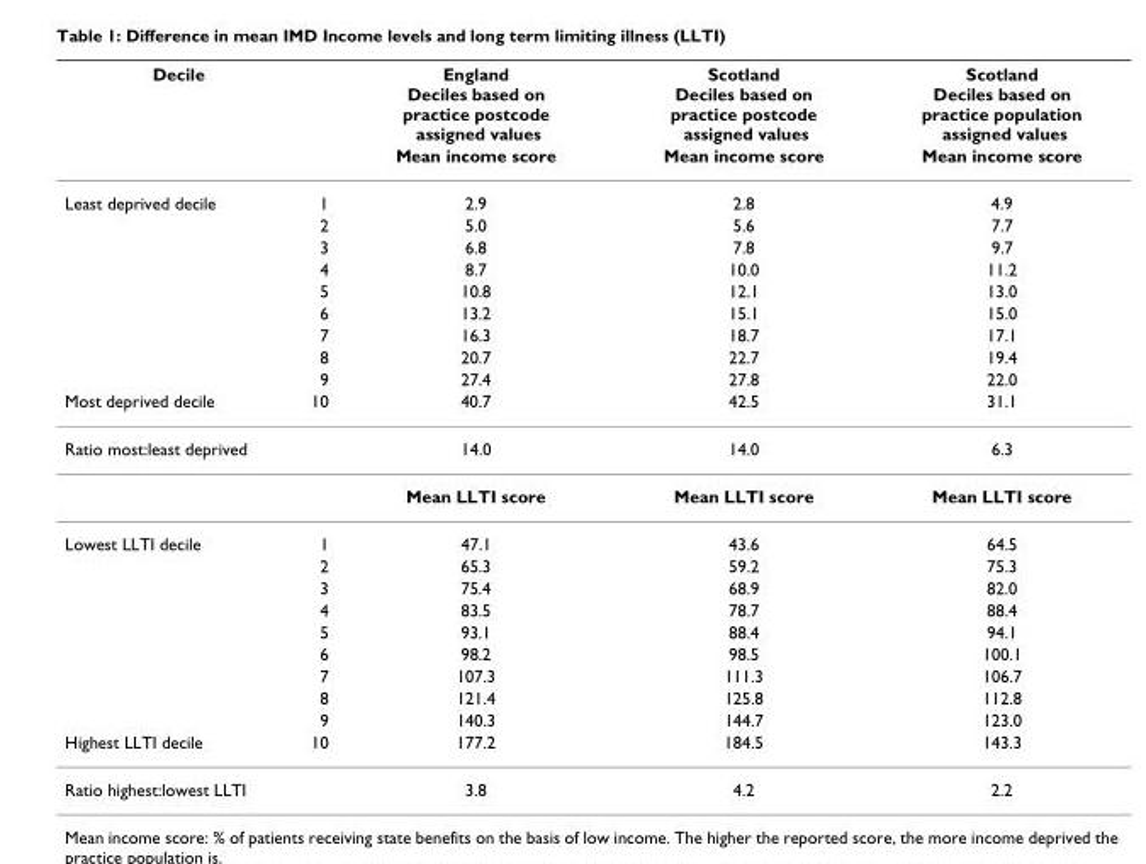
<table><thead><tr><td rowspan="2">Decile</td><td rowspan="2"></td><td rowspan="2">England Deciles based on practice postcode assigned values Mean income score</td><td rowspan="2">Scotland Deciles based on practice postcode assigned values Mean income score</td><td rowspan="2">Scotland Deciles based on practice population assigned values Mean income score</td></tr><tr></tr></thead><tbody><tr><td rowspan="9">Least deprived decile</td><td>1</td><td>2.9</td><td>2.8</td><td>4.9</td></tr><tr><td>2</td><td>5.0</td><td>5.6</td><td>7.7</td></tr><tr><td>3</td><td>6.8</td><td>7.8</td><td>9.7</td></tr><tr><td>4</td><td>8.7</td><td>10.0</td><td>11.2</td></tr><tr><td>5</td><td>10.8</td><td>12.1</td><td>13.0</td></tr><tr><td>6</td><td>13.2</td><td>15.1</td><td>15.0</td></tr><tr><td>7</td><td>16.3</td><td>18.7</td><td>17.1</td></tr><tr><td>8</td><td>20.7</td><td>22.7</td><td>19.4</td></tr><tr><td>9</td><td>27.4</td><td>27.8</td><td>22.0</td></tr><tr><td>Most deprived decile</td><td>10</td><td>40.7</td><td>42.5</td><td>31.1</td></tr><tr><td colspan="2">Ratio most:least deprived</td><td>14.0</td><td>14.0</td><td>6.3</td></tr><tr><td></td><td></td><td>Mean LLTI score</td><td>Mean LLTI score</td><td>Mean LLTI score</td></tr><tr><td rowspan="9">Lowest LLTI decile</td><td>1</td><td>47.1</td><td>43.6</td><td>64.5</td></tr><tr><td>2</td><td>65.3</td><td>59.2</td><td>75.3</td></tr><tr><td>3</td><td>75.4</td><td>68.9</td><td>82.0</td></tr><tr><td>4</td><td>83.5</td><td>78.7</td><td>88.4</td></tr><tr><td>5</td><td>93.1</td><td>88.4</td><td>94.1</td></tr><tr><td>6</td><td>98.2</td><td>98.5</td><td>100.1</td></tr><tr><td>7</td><td>107.3</td><td>111.3</td><td>106.7</td></tr><tr><td>8</td><td>121.4</td><td>125.8</td><td>112.8</td></tr><tr><td>9</td><td>140.3</td><td>144.7</td><td>123.0</td></tr><tr><td>Highest LLTI decile</td><td>10</td><td>177.2</td><td>184.5</td><td>143.3</td></tr><tr><td colspan="2">Ratio highest:lowest LLTI</td><td>3.8</td><td>4.2</td><td>2.2</td></tr></tbody></table>